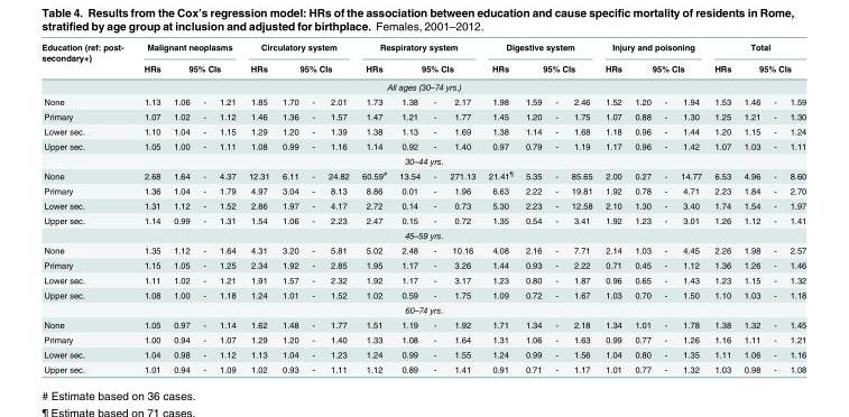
<table><thead><tr><td rowspan="2">Education (ref: post- secondary+)</td><td colspan="4">Malignant neoplasms</td><td colspan="4">Circulatory system</td><td colspan="4">Respiratory system</td><td colspan="4">Digestive system</td><td colspan="4">Injury and poisoning</td><td colspan="4">Total</td></tr><tr><td>HRs</td><td colspan="3">95% CIs</td><td>HRs</td><td colspan="3">95% CIs</td><td>HRs</td><td colspan="3">95% CIs</td><td>HRs</td><td colspan="3">95% CIs</td><td>HRs</td><td colspan="3">95% CIs</td><td>HRs</td><td colspan="3">95% CIs</td></tr><tr><td colspan="25">All ages (30–74 yrs.)</td></tr><tr><td>None</td><td>1.13</td><td>1.06</td><td>-</td><td>1.21</td><td>1.85</td><td>1.70</td><td>-</td><td>2.01</td><td>1.73</td><td>1.38</td><td>-</td><td>2.17</td><td>1.98</td><td>1.59</td><td>-</td><td>2.46</td><td>1.52</td><td>1.20</td><td>-</td><td>1.94</td><td>1.53</td><td>1.46</td><td>-</td><td>1.59</td></tr></thead><tbody><tr><td>Primary</td><td>1.07</td><td>1.02</td><td>-</td><td>1.12</td><td>1.46</td><td>1.36</td><td>-</td><td>1.57</td><td>1.47</td><td>1.21</td><td>-</td><td>1.77</td><td>1.45</td><td>1.20</td><td>-</td><td>1.75</td><td>1.07</td><td>0.88</td><td>-</td><td>1.30</td><td>1.25</td><td>1.21</td><td>-</td><td>1.30</td></tr><tr><td>Lower sec.</td><td>1.10</td><td>1.04</td><td>-</td><td>1.15</td><td>1.29</td><td>1.20</td><td>-</td><td>1.39</td><td>1.38</td><td>1.13</td><td>-</td><td>1.69</td><td>1.38</td><td>1.14</td><td>-</td><td>1.68</td><td>1.18</td><td>0.96</td><td>-</td><td>1.44</td><td>1.20</td><td>1.15</td><td>-</td><td>1.24</td></tr><tr><td>Upper sec.</td><td>1.05</td><td>1.00</td><td>-</td><td>1.11</td><td>1.08</td><td>0.99</td><td>-</td><td>1.16</td><td>1.14</td><td>0.92</td><td>-</td><td>1.40</td><td>0.97</td><td>0.79</td><td>-</td><td>1.19</td><td>1.17</td><td>0.96</td><td>-</td><td>1.42</td><td>1.07</td><td>1.03</td><td>-</td><td>1.11</td></tr><tr><td colspan="25">30–44 yrs.</td></tr><tr><td>None</td><td>2.68</td><td>1.64</td><td>-</td><td>4.37</td><td>12.31</td><td>6.11</td><td>-</td><td>24.82</td><td>60.59<sup>#</sup></td><td>13.54</td><td>-</td><td>271.13</td><td>21.41<sup>¶</sup></td><td>5.35</td><td>-</td><td>85.65</td><td>2.00</td><td>0.27</td><td>-</td><td>14.77</td><td>6.53</td><td>4.96</td><td>-</td><td>8.60</td></tr><tr><td>Primary</td><td>1.36</td><td>1.04</td><td>-</td><td>1.79</td><td>4.97</td><td>3.04</td><td>-</td><td>8.13</td><td>8.86</td><td>0.01</td><td>-</td><td>1.96</td><td>6.63</td><td>2.22</td><td>-</td><td>19.81</td><td>1.92</td><td>0.78</td><td>-</td><td>4.71</td><td>2.23</td><td>1.84</td><td>-</td><td>2.70</td></tr><tr><td>Lower sec.</td><td>1.31</td><td>1.12</td><td>-</td><td>1.52</td><td>2.86</td><td>1.97</td><td>-</td><td>4.17</td><td>2.72</td><td>0.14</td><td>-</td><td>0.73</td><td>5.30</td><td>2.23</td><td>-</td><td>12.58</td><td>2.10</td><td>1.30</td><td>-</td><td>3.40</td><td>1.74</td><td>1.54</td><td>-</td><td>1.97</td></tr><tr><td>Upper sec.</td><td>1.14</td><td>0.99</td><td>-</td><td>1.31</td><td>1.54</td><td>1.06</td><td>-</td><td>2.23</td><td>2.47</td><td>0.15</td><td>-</td><td>0.72</td><td>1.35</td><td>0.54</td><td>-</td><td>3.41</td><td>1.92</td><td>1.23</td><td>-</td><td>3.01</td><td>1.26</td><td>1.12</td><td>-</td><td>1.41</td></tr><tr><td colspan="25">45–59 yrs.</td></tr><tr><td>None</td><td>1.35</td><td>1.12</td><td>-</td><td>1.64</td><td>4.31</td><td>3.20</td><td>-</td><td>5.81</td><td>5.02</td><td>2.48</td><td>-</td><td>10.16</td><td>4.08</td><td>2.16</td><td>-</td><td>7.71</td><td>2.14</td><td>1.03</td><td>-</td><td>4.45</td><td>2.26</td><td>1.98</td><td>-</td><td>2.57</td></tr><tr><td>Primary</td><td>1.15</td><td>1.05</td><td>-</td><td>1.25</td><td>2.34</td><td>1.92</td><td>-</td><td>2.85</td><td>1.95</td><td>1.17</td><td>-</td><td>3.26</td><td>1.44</td><td>0.93</td><td>-</td><td>2.22</td><td>0.71</td><td>0.45</td><td>-</td><td>1.12</td><td>1.36</td><td>1.26</td><td>-</td><td>1.46</td></tr><tr><td>Lower sec.</td><td>1.11</td><td>1.02</td><td>-</td><td>1.21</td><td>1.91</td><td>1.57</td><td>-</td><td>2.32</td><td>1.92</td><td>1.17</td><td>-</td><td>3.17</td><td>1.23</td><td>0.80</td><td>-</td><td>1.87</td><td>0.96</td><td>0.65</td><td>-</td><td>1.43</td><td>1.23</td><td>1.15</td><td>-</td><td>1.32</td></tr><tr><td>Upper sec.</td><td>1.08</td><td>1.00</td><td>-</td><td>1.18</td><td>1.24</td><td>1.01</td><td>-</td><td>1.52</td><td>1.02</td><td>0.59</td><td>-</td><td>1.75</td><td>1.09</td><td>0.72</td><td>-</td><td>1.67</td><td>1.03</td><td>0.70</td><td>-</td><td>1.50</td><td>1.10</td><td>1.03</td><td>-</td><td>1.18</td></tr><tr><td colspan="25">60–74 yrs.</td></tr><tr><td>None</td><td>1.05</td><td>0.97</td><td>-</td><td>1.14</td><td>1.62</td><td>1.48</td><td>-</td><td>1.77</td><td>1.51</td><td>1.19</td><td>-</td><td>1.92</td><td>1.71</td><td>1.34</td><td>-</td><td>2.18</td><td>1.34</td><td>1.01</td><td>-</td><td>1.78</td><td>1.38</td><td>1.32</td><td>-</td><td>1.45</td></tr><tr><td>Primary</td><td>1.00</td><td>0.94</td><td>-</td><td>1.07</td><td>1.29</td><td>1.20</td><td>-</td><td>1.40</td><td>1.33</td><td>1.08</td><td>-</td><td>1.64</td><td>1.31</td><td>1.06</td><td>-</td><td>1.63</td><td>0.99</td><td>0.77</td><td>-</td><td>1.26</td><td>1.16</td><td>1.11</td><td>-</td><td>1.21</td></tr><tr><td>Lower sec.</td><td>1.04</td><td>0.98</td><td>-</td><td>1.12</td><td>1.13</td><td>1.04</td><td>-</td><td>1.23</td><td>1.24</td><td>0.99</td><td>-</td><td>1.55</td><td>1.24</td><td>0.99</td><td>-</td><td>1.56</td><td>1.04</td><td>0.80</td><td>-</td><td>1.35</td><td>1.11</td><td>1.06</td><td>-</td><td>1.16</td></tr><tr><td>Upper sec.</td><td>1.01</td><td>0.94</td><td>-</td><td>1.09</td><td>1.02</td><td>0.93</td><td>-</td><td>1.11</td><td>1.12</td><td>0.89</td><td>-</td><td>1.41</td><td>0.91</td><td>0.71</td><td>-</td><td>1.17</td><td>1.01</td><td>0.77</td><td>-</td><td>1.32</td><td>1.03</td><td>0.98</td><td>-</td><td>1.08</td></tr></tbody></table>